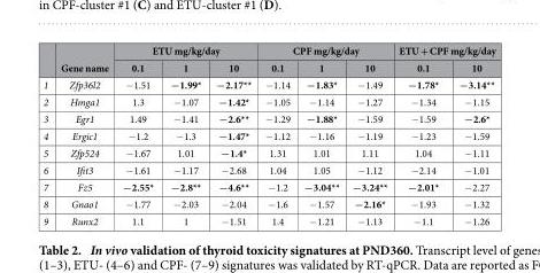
<table><thead><tr><td rowspan="2"></td><td rowspan="2">Gene name</td><td colspan="3">ETU mg/kg/day</td><td colspan="3">CPF mg/kg/day</td><td colspan="2">ETU + CPF mg/kg/day</td></tr><tr><td>0.1</td><td>1</td><td>10</td><td>0.1</td><td>1</td><td>10</td><td>0.1</td><td>10</td></tr></thead><tbody><tr><td>1</td><td>Zfp36l2</td><td>− 1.51</td><td>−1.99*</td><td>−2.17**</td><td>− 1.14</td><td>−1.83*</td><td>− 1.49</td><td>−1.78*</td><td>−3.14**</td></tr><tr><td>2</td><td>Hmga1</td><td>1.3</td><td>− 1.07</td><td>−1.42*</td><td>− 1.05</td><td>− 1.14</td><td>− 1.27</td><td>− 1.34</td><td>− 1.15</td></tr><tr><td>3</td><td>Egr1</td><td>1.49</td><td>− 1.41</td><td>−2.6**</td><td>− 1.29</td><td>−1.88*</td><td>− 1.59</td><td>− 1.59</td><td>−2.6*</td></tr><tr><td>4</td><td>Ergic1</td><td>− 1.2</td><td>− 1.3</td><td>−1.47*</td><td>− 1.12</td><td>− 1.16</td><td>− 1.19</td><td>− 1.23</td><td>− 1.59</td></tr><tr><td>5</td><td>Zfp524</td><td>− 1.67</td><td>1.01</td><td>−1.4*</td><td>1.31</td><td>1.01</td><td>1.11</td><td>1.04</td><td>− 1.11</td></tr><tr><td>6</td><td>Ifit3</td><td>− 1.61</td><td>− 1.17</td><td>− 2.68</td><td>1.04</td><td>1.05</td><td>− 1.12</td><td>− 2.14</td><td>− 1.01</td></tr><tr><td>7</td><td>Fz5</td><td>−2.55*</td><td>−2.8**</td><td>−4.6**</td><td>− 1.2</td><td>−3.04**</td><td>−3.24**</td><td>−2.01*</td><td>− 2.27</td></tr><tr><td>8</td><td>Gnao1</td><td>− 1.77</td><td>− 2.03</td><td>− 2.04</td><td>− 1.6</td><td>− 1.57</td><td>−2.16*</td><td>− 1.93</td><td>− 1.32</td></tr><tr><td>9</td><td>Runx2</td><td>1.1</td><td>1</td><td>− 1.51</td><td>1.4</td><td>− 1.21</td><td>− 1.13</td><td>− 1.1</td><td>− 1.26</td></tr></tbody></table>